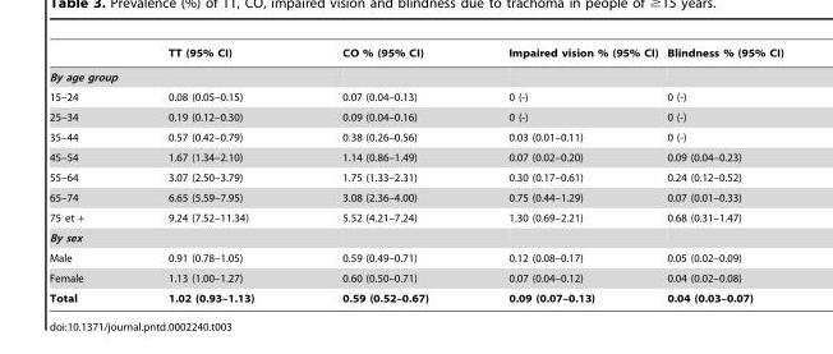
<table><thead><tr><td></td><td>TT (95% CI)</td><td>CO % (95% CI)</td><td>Impaired vision % (95% CI)</td><td>Blindness % (95% CI)</td></tr></thead><tbody><tr><td colspan="5">By age group</td></tr><tr><td>15–24</td><td>0.08 (0.05–0.15)</td><td>0.07 (0.04–0.13)</td><td>0 (-)</td><td>0 (-)</td></tr><tr><td>25–34</td><td>0.19 (0.12–0.30)</td><td>0.09 (0.04–0.16)</td><td>0 (-)</td><td>0 (-)</td></tr><tr><td>35–44</td><td>0.57 (0.42–0.79)</td><td>0.38 (0.26–0.56)</td><td>0.03 (0.01–0.11)</td><td>0 (-)</td></tr><tr><td>45–54</td><td>1.67 (1.34–2.10)</td><td>1.14 (0.86–1.49)</td><td>0.07 (0.02–0.20)</td><td>0.09 (0.04–0.23)</td></tr><tr><td>55–64</td><td>3.07 (2.50–3.79)</td><td>1.75 (1.33–2.31)</td><td>0.30 (0.17–0.61)</td><td>0.24 (0.12–0.52)</td></tr><tr><td>65–74</td><td>6.65 (5.59–7.95)</td><td>3.08 (2.36–4.00)</td><td>0.75 (0.44–1.29)</td><td>0.07 (0.01–0.33)</td></tr><tr><td>75 et +</td><td>9.24 (7.52–11.34)</td><td>5.52 (4.21–7.24)</td><td>1.30 (0.69–2.21)</td><td>0.68 (0.31–1.47)</td></tr><tr><td colspan="5">By sex</td></tr><tr><td>Male</td><td>0.91 (0.78–1.05)</td><td>0.59 (0.49–0.71)</td><td>0.12 (0.08–0.17)</td><td>0.05 (0.02–0.09)</td></tr><tr><td>Female</td><td>1.13 (1.00–1.27)</td><td>0.60 (0.50–0.71)</td><td>0.07 (0.04–0.12)</td><td>0.04 (0.02–0.08)</td></tr><tr><td>Total</td><td>1.02 (0.93–1.13)</td><td>0.59 (0.52–0.67)</td><td>0.09 (0.07–0.13)</td><td>0.04 (0.03–0.07)</td></tr></tbody></table>